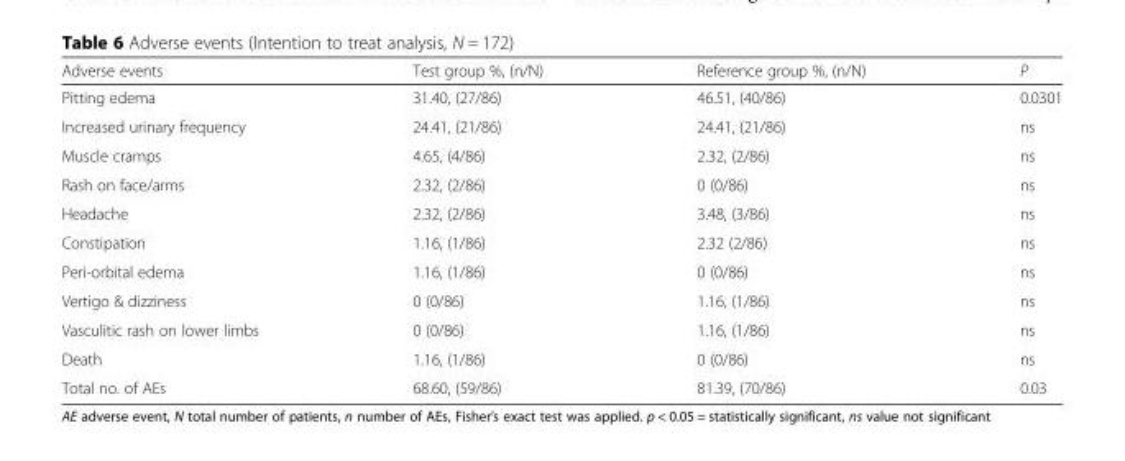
<table><thead><tr><td>Adverse events</td><td>Test group %, (n/N)</td><td>Reference group %, (n/N)</td><td>P</td></tr></thead><tbody><tr><td>Pitting edema</td><td>31.40, (27/86)</td><td>46.51, (40/86)</td><td>0.0301</td></tr><tr><td>Increased urinary frequency</td><td>24.41, (21/86)</td><td>24.41, (21/86)</td><td>ns</td></tr><tr><td>Muscle cramps</td><td>4.65, (4/86)</td><td>2.32, (2/86)</td><td>ns</td></tr><tr><td>Rash on face/arms</td><td>2.32, (2/86)</td><td>0 (0/86)</td><td>ns</td></tr><tr><td>Headache</td><td>2.32, (2/86)</td><td>3.48, (3/86)</td><td>ns</td></tr><tr><td>Constipation</td><td>1.16, (1/86)</td><td>2.32 (2/86)</td><td>ns</td></tr><tr><td>Peri-orbital edema</td><td>1.16, (1/86)</td><td>0 (0/86)</td><td>ns</td></tr><tr><td>Vertigo &amp; dizziness</td><td>0 (0/86)</td><td>1.16, (1/86)</td><td>ns</td></tr><tr><td>Vasculitic rash on lower limbs</td><td>0 (0/86)</td><td>1.16, (1/86)</td><td>ns</td></tr><tr><td>Death</td><td>1.16, (1/86)</td><td>0 (0/86)</td><td>ns</td></tr><tr><td>Total no. of AEs</td><td>68.60, (59/86)</td><td>81.39, (70/86)</td><td>0.03</td></tr></tbody></table>